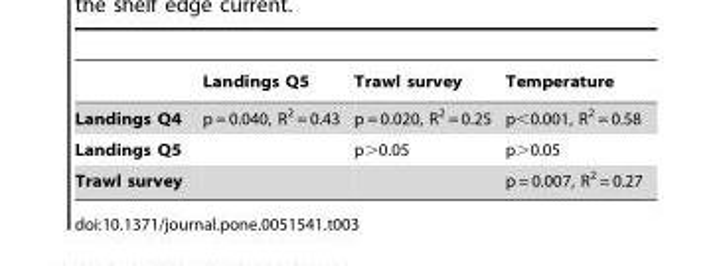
<table><thead><tr><td></td><td>Landings Q5</td><td>Trawl survey</td><td>Temperature</td></tr></thead><tbody><tr><td>Landings Q4</td><td>p = 0.040, R<sup>2</sup> = 0.43</td><td>p = 0.020, R<sup>2</sup> = 0.25</td><td>p&lt;0.001, R<sup>2</sup> = 0.58</td></tr><tr><td>Landings Q5</td><td></td><td>p&gt;0.05</td><td>p&gt;0.05</td></tr><tr><td>Trawl survey</td><td></td><td></td><td>p = 0.007, R<sup>2</sup> = 0.27</td></tr></tbody></table>